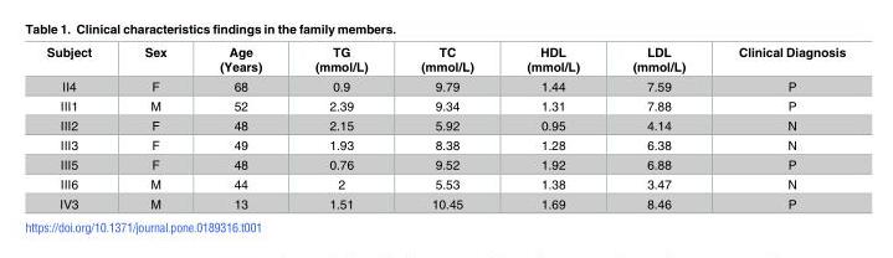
<table><thead><tr><td>Subject</td><td>Sex</td><td>Age (Years)</td><td>TG (mmol/L)</td><td>TC (mmol/L)</td><td>HDL (mmol/L)</td><td>LDL (mmol/L)</td><td>Clinical Diagnosis</td></tr></thead><tbody><tr><td>II4</td><td>F</td><td>68</td><td>0.9</td><td>9.79</td><td>1.44</td><td>7.59</td><td>P</td></tr><tr><td>III1</td><td>M</td><td>52</td><td>2.39</td><td>9.34</td><td>1.31</td><td>7.88</td><td>P</td></tr><tr><td>III2</td><td>F</td><td>48</td><td>2.15</td><td>5.92</td><td>0.95</td><td>4.14</td><td>N</td></tr><tr><td>III3</td><td>F</td><td>49</td><td>1.93</td><td>8.38</td><td>1.28</td><td>6.38</td><td>N</td></tr><tr><td>III5</td><td>F</td><td>48</td><td>0.76</td><td>9.52</td><td>1.92</td><td>6.88</td><td>P</td></tr><tr><td>III6</td><td>M</td><td>44</td><td>2</td><td>5.53</td><td>1.38</td><td>3.47</td><td>N</td></tr><tr><td>IV3</td><td>M</td><td>13</td><td>1.51</td><td>10.45</td><td>1.69</td><td>8.46</td><td>P</td></tr></tbody></table>